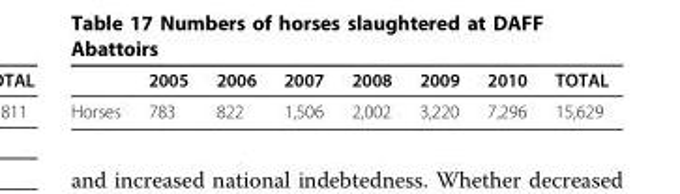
<table><thead><tr><td></td><td>2005</td><td>2006</td><td>2007</td><td>2008</td><td>2009</td><td>2010</td><td>TOTAL</td></tr></thead><tbody><tr><td>Horses</td><td>783</td><td>822</td><td>1,506</td><td>2,002</td><td>3,220</td><td>7,296</td><td>15,629</td></tr></tbody></table>